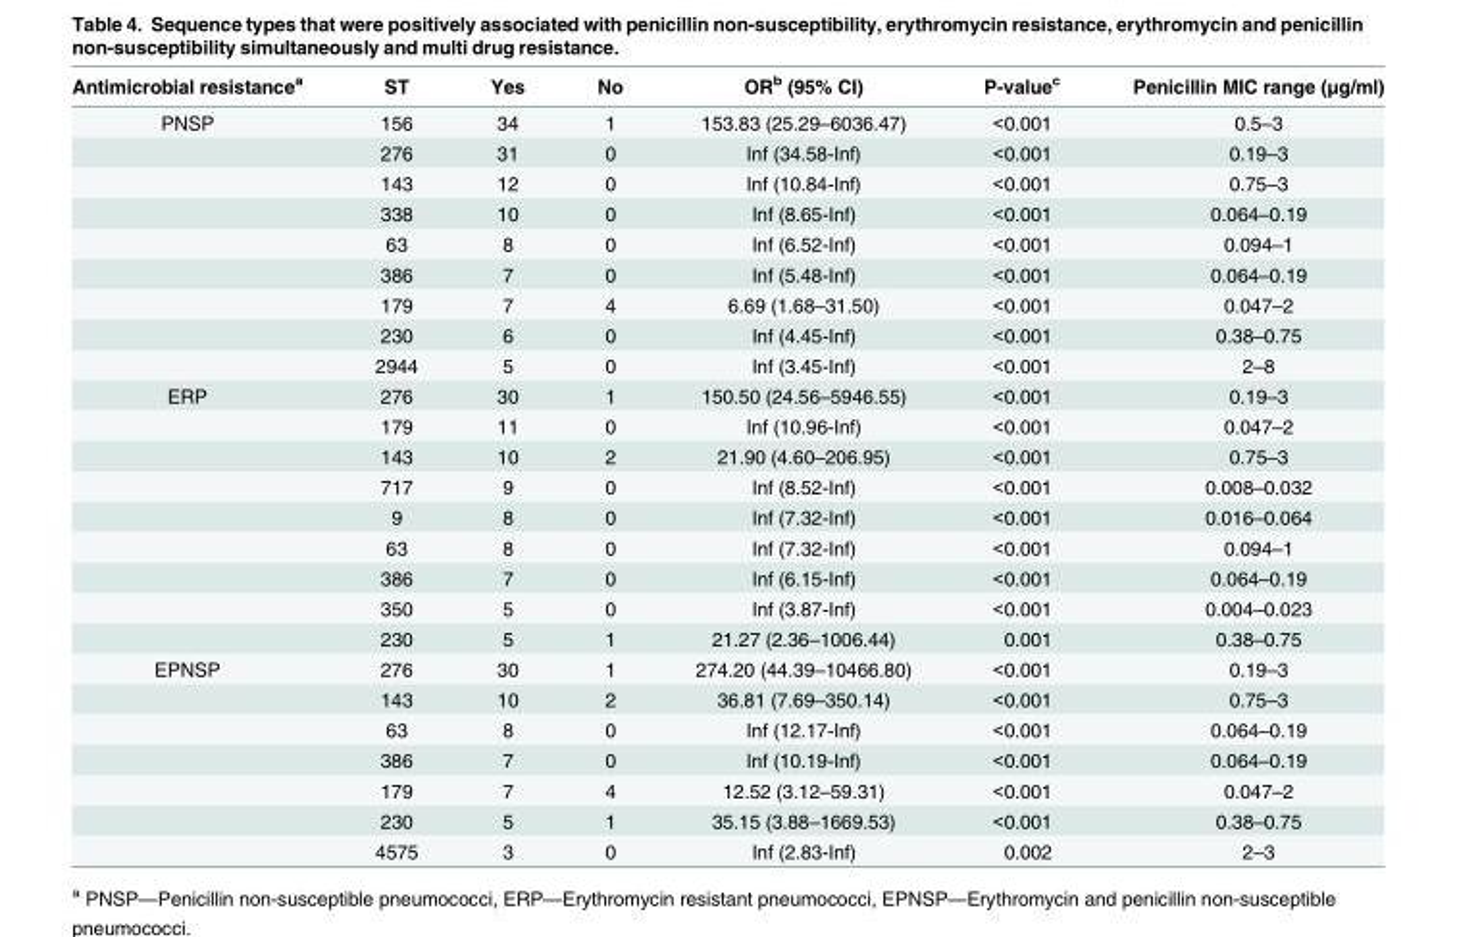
<table><thead><tr><td>Antimicrobial resistance<sup>a</sup></td><td>ST</td><td>Yes</td><td>No</td><td>OR<sup>b</sup> (95% CI)</td><td>P-value<sup>c</sup></td><td>Penicillin MIC range (μg/ml)</td></tr></thead><tbody><tr><td rowspan="9">PNSP</td><td>156</td><td>34</td><td>1</td><td>153.83 (25.29–6036.47)</td><td>&lt;0.001</td><td>0.5–3</td></tr><tr><td>276</td><td>31</td><td>0</td><td>Inf (34.58-Inf)</td><td>&lt;0.001</td><td>0.19–3</td></tr><tr><td>143</td><td>12</td><td>0</td><td>Inf (10.84-Inf)</td><td>&lt;0.001</td><td>0.75–3</td></tr><tr><td>338</td><td>10</td><td>0</td><td>Inf (8.65-Inf)</td><td>&lt;0.001</td><td>0.064–0.19</td></tr><tr><td>63</td><td>8</td><td>0</td><td>Inf (6.52-Inf)</td><td>&lt;0.001</td><td>0.094–1</td></tr><tr><td>386</td><td>7</td><td>0</td><td>Inf (5.48-Inf)</td><td>&lt;0.001</td><td>0.064–0.19</td></tr><tr><td>179</td><td>7</td><td>4</td><td>6.69 (1.68–31.50)</td><td>&lt;0.001</td><td>0.047–2</td></tr><tr><td>230</td><td>6</td><td>0</td><td>Inf (4.45-Inf)</td><td>&lt;0.001</td><td>0.38–0.75</td></tr><tr><td>2944</td><td>5</td><td>0</td><td>Inf (3.45-Inf)</td><td>&lt;0.001</td><td>2–8</td></tr><tr><td rowspan="9">ERP</td><td>276</td><td>30</td><td>1</td><td>150.50 (24.56–5946.55)</td><td>&lt;0.001</td><td>0.19–3</td></tr><tr><td>179</td><td>11</td><td>0</td><td>Inf (10.96-Inf)</td><td>&lt;0.001</td><td>0.047–2</td></tr><tr><td>143</td><td>10</td><td>2</td><td>21.90 (4.60–206.95)</td><td>&lt;0.001</td><td>0.75–3</td></tr><tr><td>717</td><td>9</td><td>0</td><td>Inf (8.52-Inf)</td><td>&lt;0.001</td><td>0.008–0.032</td></tr><tr><td>9</td><td>8</td><td>0</td><td>Inf (7.32-Inf)</td><td>&lt;0.001</td><td>0.016–0.064</td></tr><tr><td>63</td><td>8</td><td>0</td><td>Inf (7.32-Inf)</td><td>&lt;0.001</td><td>0.094–1</td></tr><tr><td>386</td><td>7</td><td>0</td><td>Inf (6.15-Inf)</td><td>&lt;0.001</td><td>0.064–0.19</td></tr><tr><td>350</td><td>5</td><td>0</td><td>Inf (3.87-Inf)</td><td>&lt;0.001</td><td>0.004–0.023</td></tr><tr><td>230</td><td>5</td><td>1</td><td>21.27 (2.36–1006.44)</td><td>0.001</td><td>0.38–0.75</td></tr><tr><td rowspan="7">EPNSP</td><td>276</td><td>30</td><td>1</td><td>274.20 (44.39–10466.80)</td><td>&lt;0.001</td><td>0.19–3</td></tr><tr><td>143</td><td>10</td><td>2</td><td>36.81 (7.69–350.14)</td><td>&lt;0.001</td><td>0.75–3</td></tr><tr><td>63</td><td>8</td><td>0</td><td>Inf (12.17-Inf)</td><td>&lt;0.001</td><td>0.064–0.19</td></tr><tr><td>386</td><td>7</td><td>0</td><td>Inf (10.19-Inf)</td><td>&lt;0.001</td><td>0.064–0.19</td></tr><tr><td>179</td><td>7</td><td>4</td><td>12.52 (3.12–59.31)</td><td>&lt;0.001</td><td>0.047–2</td></tr><tr><td>230</td><td>5</td><td>1</td><td>35.15 (3.88–1669.53)</td><td>&lt;0.001</td><td>0.38–0.75</td></tr><tr><td>4575</td><td>3</td><td>0</td><td>Inf (2.83-Inf)</td><td>0.002</td><td>2–3</td></tr></tbody></table>